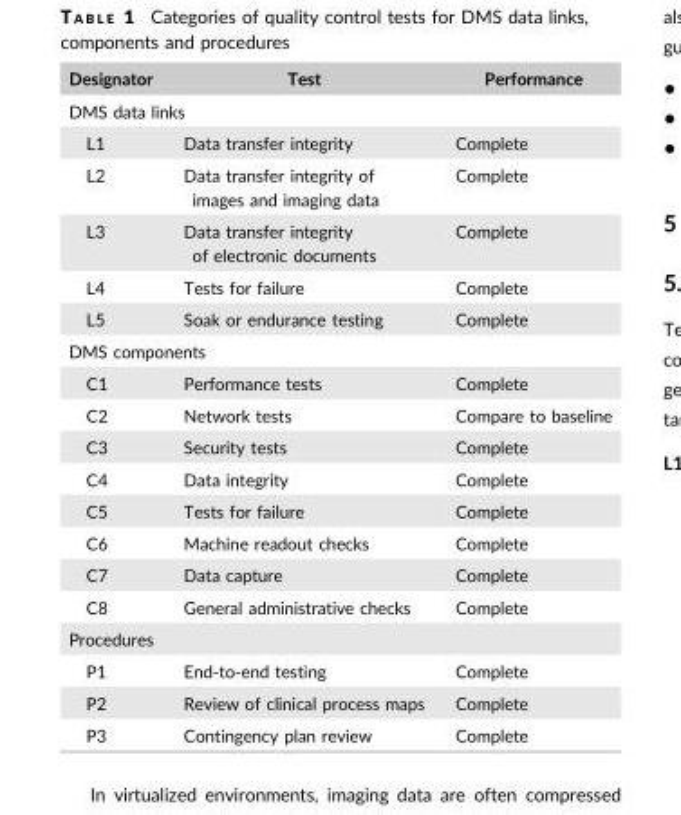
<table><thead><tr><td>Designator</td><td>Test</td><td>Performance</td></tr></thead><tbody><tr><td colspan="3">DMS data links</td></tr><tr><td>L1</td><td>Data transfer integrity</td><td>Complete</td></tr><tr><td>L2</td><td>Data transfer integrity of images and imaging data</td><td>Complete</td></tr><tr><td>L3</td><td>Data transfer integrity of electronic documents</td><td>Complete</td></tr><tr><td>L4</td><td>Tests for failure</td><td>Complete</td></tr><tr><td>L5</td><td>Soak or endurance testing</td><td>Complete</td></tr><tr><td colspan="3">DMS components</td></tr><tr><td>C1</td><td>Performance tests</td><td>Complete</td></tr><tr><td>C2</td><td>Network tests</td><td>Compare to baseline</td></tr><tr><td>C3</td><td>Security tests</td><td>Complete</td></tr><tr><td>C4</td><td>Data integrity</td><td>Complete</td></tr><tr><td>C5</td><td>Tests for failure</td><td>Complete</td></tr><tr><td>C6</td><td>Machine readout checks</td><td>Complete</td></tr><tr><td>C7</td><td>Data capture</td><td>Complete</td></tr><tr><td>C8</td><td>General administrative checks</td><td>Complete</td></tr><tr><td colspan="3">Procedures</td></tr><tr><td>P1</td><td>End-to-end testing</td><td>Complete</td></tr><tr><td>P2</td><td>Review of clinical process maps</td><td>Complete</td></tr><tr><td>P3</td><td>Contingency plan review</td><td>Complete</td></tr></tbody></table>